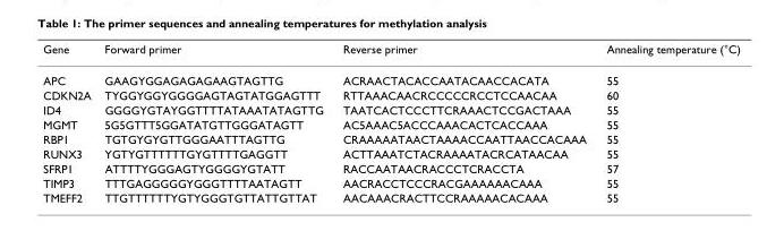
<table><thead><tr><td>Gene</td><td>Forward primer</td><td>Reverse primer</td><td>Annealing temperature (°C)</td></tr></thead><tbody><tr><td>APC</td><td>GAAGYGGAGAGAGAAGTAGTTG</td><td>ACRAACTACACCAATACAACCACATA</td><td>55</td></tr><tr><td>CDKN2A</td><td>TYGGYGGYGGGGAGTAGTATGGAGTTT</td><td>RTTAAACAACRCCCCCRCCTCCAACAA</td><td>60</td></tr><tr><td>ID4</td><td>GGGGYGTAYGGTTTTATAAATATAGTTG</td><td>TAATCACTCCCTTCRAAACTCCGACTAAA</td><td>55</td></tr><tr><td>MGMT</td><td>5G5GTTT5GGATATGTTGGGATAGTT</td><td>AC5AAAC5ACCCAAACACTCACCAAA</td><td>55</td></tr><tr><td>RBP1</td><td>TGTGYGYGTTGGGAATTTAGTTG</td><td>CRAAAAATAACTAAAACCAATTAACCACAAA</td><td>55</td></tr><tr><td>RUNX3</td><td>YGTYGTTTTTTGYGTTTTGAGGTT</td><td>ACTTAAATCTACRAAAATACRCATAACAA</td><td>55</td></tr><tr><td>SFRP1</td><td>ATTTTYGGGAGTYGGGGYGTATT</td><td>RACCAATAACRACCCTCRACCTA</td><td>57</td></tr><tr><td>TIMP3</td><td>TTTGAGGGGGYGGGTTTTAATAGTT</td><td>AACRACCTCCCRACGAAAAAACAAA</td><td>55</td></tr><tr><td>TMEFF2</td><td>TTGTTTTTTYGTYGGGTGTTATTGTTAT</td><td>AACAAACRACTTCCRAAAAACACAAA</td><td>55</td></tr></tbody></table>